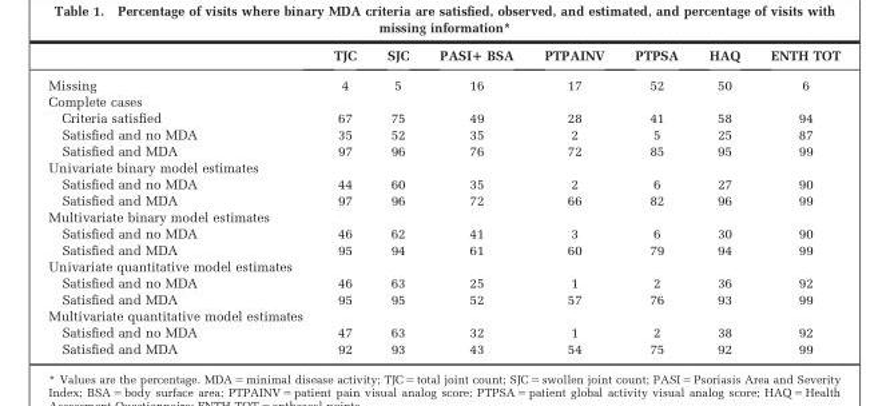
<table><thead><tr><td></td><td>TJC</td><td>SJC</td><td>PASI+ BSA</td><td>PTPAINV</td><td>PTPSA</td><td>HAQ</td><td>ENTH TOT</td></tr></thead><tbody><tr><td>Missing</td><td>4</td><td>5</td><td>16</td><td>17</td><td>52</td><td>50</td><td>6</td></tr><tr><td colspan="8">Complete cases</td></tr><tr><td>Criteria satisfied</td><td>67</td><td>75</td><td>49</td><td>28</td><td>41</td><td>58</td><td>94</td></tr><tr><td>Satisfied and no MDA</td><td>35</td><td>52</td><td>35</td><td>2</td><td>5</td><td>25</td><td>87</td></tr><tr><td>Satisfied and MDA</td><td>97</td><td>96</td><td>76</td><td>72</td><td>85</td><td>95</td><td>99</td></tr><tr><td colspan="8">Univariate binary model estimates</td></tr><tr><td>Satisfied and no MDA</td><td>44</td><td>60</td><td>35</td><td>2</td><td>6</td><td>27</td><td>90</td></tr><tr><td>Satisfied and MDA</td><td>97</td><td>96</td><td>72</td><td>66</td><td>82</td><td>96</td><td>99</td></tr><tr><td colspan="8">Multivariate binary model estimates</td></tr><tr><td>Satisfied and no MDA</td><td>46</td><td>62</td><td>41</td><td>3</td><td>6</td><td>30</td><td>90</td></tr><tr><td>Satisfied and MDA</td><td>95</td><td>94</td><td>61</td><td>60</td><td>79</td><td>94</td><td>99</td></tr><tr><td colspan="8">Univariate quantitative model estimates</td></tr><tr><td>Satisfied and no MDA</td><td>46</td><td>63</td><td>25</td><td>1</td><td>2</td><td>36</td><td>92</td></tr><tr><td>Satisfied and MDA</td><td>95</td><td>95</td><td>52</td><td>57</td><td>76</td><td>93</td><td>99</td></tr><tr><td colspan="8">Multivariate quantitative model estimates</td></tr><tr><td>Satisfied and no MDA</td><td>47</td><td>63</td><td>32</td><td>1</td><td>2</td><td>38</td><td>92</td></tr><tr><td>Satisfied and MDA</td><td>92</td><td>93</td><td>43</td><td>54</td><td>75</td><td>92</td><td>99</td></tr></tbody></table>